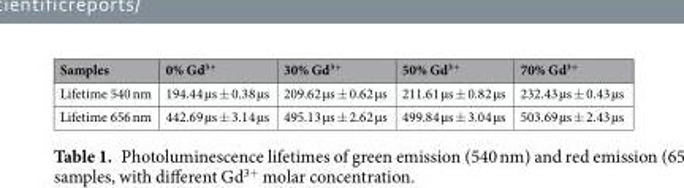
<table><thead><tr><td>Samples</td><td>0% Gd<sup>3+</sup></td><td>30% Gd<sup>3+</sup></td><td>50% Gd<sup>3+</sup></td><td>70% Gd<sup>3+</sup></td></tr></thead><tbody><tr><td>Lifetime 540 nm</td><td>194.44 µs ± 0.38 µs</td><td>209.62 µs ± 0.62 µs</td><td>211.61 µs ± 0.82 µs</td><td>232.43 µs ± 0.43 µs</td></tr><tr><td>Lifetime 656 nm</td><td>442.69 µs ± 3.14 µs</td><td>495.13 µs ± 2.62 µs</td><td>499.84 µs ± 3.04 µs</td><td>503.69 µs ± 2.43 µs</td></tr></tbody></table>